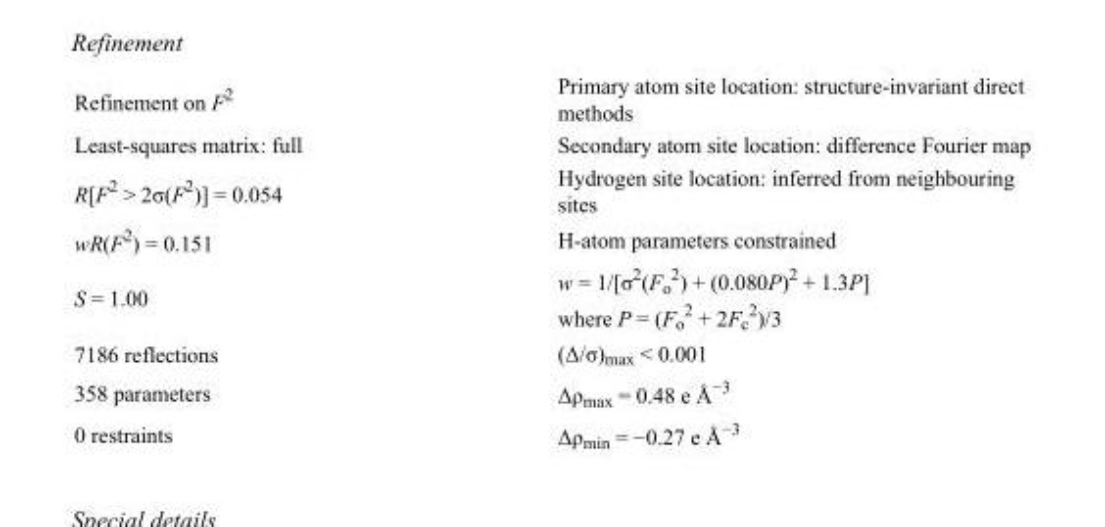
<table><tbody><tr><td>Refinement on F<sup>2</sup></td><td>Primary atom site location: structure-invariant direct methods</td></tr><tr><td>Least-squares matrix: full</td><td>Secondary atom site location: difference Fourier map</td></tr><tr><td>R[F<sup>2</sup> &gt; 2σ(F<sup>2</sup>)] = 0.054</td><td>Hydrogen site location: inferred from neighbouring sites</td></tr><tr><td>wR(F<sup>2</sup>) = 0.151</td><td>H-atom parameters constrained</td></tr><tr><td>S = 1.00</td><td>w = 1/[σ<sup>2</sup>(F<sub>o</sub> <sup>2</sup>) + (0.080P)<sup>2</sup> + 1.3P] where P = (F<sub>o</sub> <sup>2</sup> + 2F<sub>c</sub> <sup>2</sup>)/3</td></tr><tr><td>7186 reflections</td><td>(Δ/σ)<sub>max</sub> &lt; 0.001</td></tr><tr><td>358 parameters</td><td>Δρ<sub>max</sub> = 0.48 e Å<sup>−3</sup></td></tr><tr><td>0 restraints</td><td>Δρ<sub>min</sub> = −0.27 e Å<sup>−3</sup></td></tr></tbody></table>